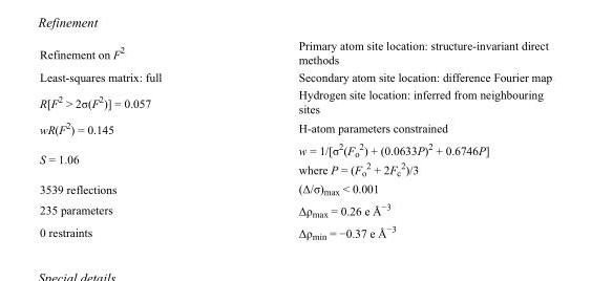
<table><tbody><tr><td>Refinement on F<sup>2</sup></td><td>Primary atom site location: structure-invariant direct methods</td></tr><tr><td>Least-squares matrix: full</td><td>Secondary atom site location: difference Fourier map</td></tr><tr><td>R[F<sup>2</sup> &gt; 2σ(F<sup>2</sup>)] = 0.057</td><td>Hydrogen site location: inferred from neighbouring sites</td></tr><tr><td>wR(F<sup>2</sup>) = 0.145</td><td>H-atom parameters constrained</td></tr><tr><td>S = 1.06</td><td>w = 1/[σ<sup>2</sup>(F<sub>o</sub> <sup>2</sup>) + (0.0633P)<sup>2</sup> + 0.6746P] where P = (F<sub>o</sub> <sup>2</sup> + 2F<sub>c</sub> <sup>2</sup>)/3</td></tr><tr><td>3539 reflections</td><td>(Δ/σ)<sub>max</sub> &lt; 0.001</td></tr><tr><td>235 parameters</td><td>Δρ<sub>max</sub> = 0.26 e Å<sup>−3</sup></td></tr><tr><td>0 restraints</td><td>Δρ<sub>min</sub> = −0.37 e Å<sup>−3</sup></td></tr></tbody></table>